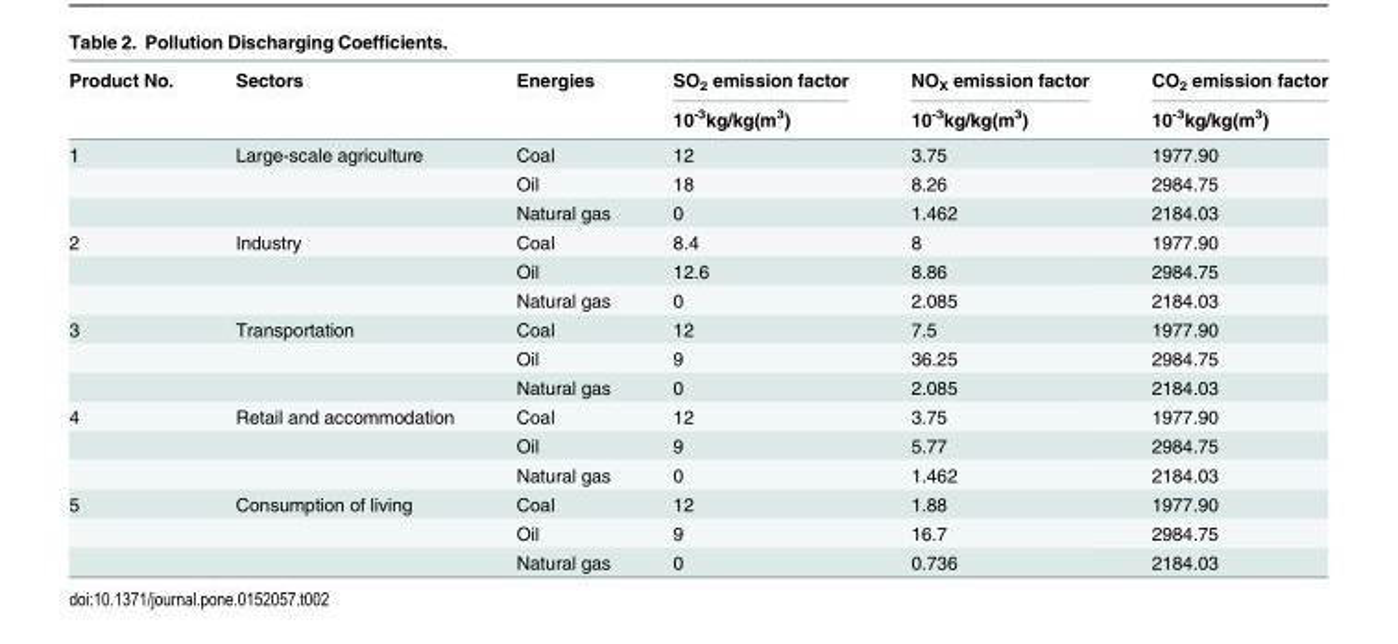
<table><thead><tr><td rowspan="2">Product No.</td><td rowspan="2">Sectors</td><td rowspan="2">Energies</td><td rowspan="2">SO<sub>2</sub> emission factor 10<sup>-3</sup>kg/kg(m<sup>3</sup>)</td><td rowspan="2">NO<sub>X</sub> emission factor 10<sup>-3</sup>kg/kg(m<sup>3</sup>)</td><td rowspan="2">CO<sub>2</sub> emission factor 10<sup>-3</sup>kg/kg(m<sup>3</sup>)</td></tr><tr></tr></thead><tbody><tr><td rowspan="3">1</td><td>Large-scale agriculture</td><td>Coal</td><td>12</td><td>3.75</td><td>1977.90</td></tr><tr><td></td><td>Oil</td><td>18</td><td>8.26</td><td>2984.75</td></tr><tr><td></td><td>Natural gas</td><td>0</td><td>1.462</td><td>2184.03</td></tr><tr><td rowspan="3">2</td><td>Industry</td><td>Coal</td><td>8.4</td><td>8</td><td>1977.90</td></tr><tr><td></td><td>Oil</td><td>12.6</td><td>8.86</td><td>2984.75</td></tr><tr><td></td><td>Natural gas</td><td>0</td><td>2.085</td><td>2184.03</td></tr><tr><td rowspan="3">3</td><td>Transportation</td><td>Coal</td><td>12</td><td>7.5</td><td>1977.90</td></tr><tr><td></td><td>Oil</td><td>9</td><td>36.25</td><td>2984.75</td></tr><tr><td></td><td>Natural gas</td><td>0</td><td>2.085</td><td>2184.03</td></tr><tr><td rowspan="3">4</td><td>Retail and accommodation</td><td>Coal</td><td>12</td><td>3.75</td><td>1977.90</td></tr><tr><td></td><td>Oil</td><td>9</td><td>5.77</td><td>2984.75</td></tr><tr><td></td><td>Natural gas</td><td>0</td><td>1.462</td><td>2184.03</td></tr><tr><td rowspan="3">5</td><td>Consumption of living</td><td>Coal</td><td>12</td><td>1.88</td><td>1977.90</td></tr><tr><td></td><td>Oil</td><td>9</td><td>16.7</td><td>2984.75</td></tr><tr><td></td><td>Natural gas</td><td>0</td><td>0.736</td><td>2184.03</td></tr></tbody></table>